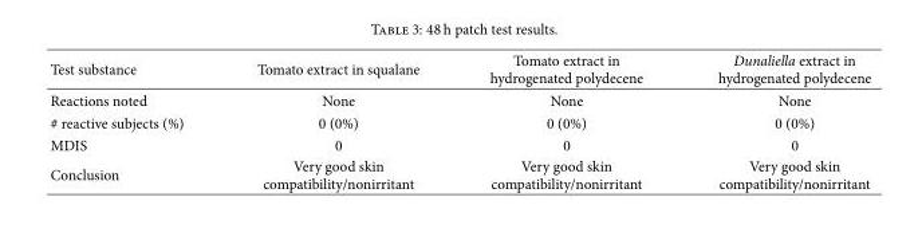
<table><thead><tr><td>Test substance</td><td>Tomato extract in squalane</td><td>Tomato extract in hydrogenated polydecene</td><td>Dunaliella extract in hydrogenated polydecene</td></tr></thead><tbody><tr><td>Reactions noted</td><td>None</td><td>None</td><td>None</td></tr><tr><td># reactive subjects (%)</td><td>0 (0%)</td><td>0 (0%)</td><td>0 (0%)</td></tr><tr><td>MDIS</td><td>0</td><td>0</td><td>0</td></tr><tr><td>Conclusion</td><td>Very good skin compatibility/nonirritant</td><td>Very good skin compatibility/nonirritant</td><td>Very good skin compatibility/nonirritant</td></tr></tbody></table>